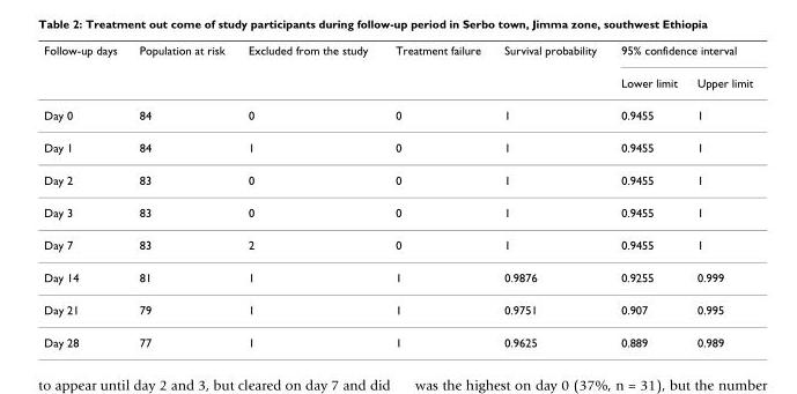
<table><thead><tr><td rowspan="2">Follow-up days</td><td rowspan="2">Population at risk</td><td rowspan="2">Excluded from the study</td><td rowspan="2">Treatment failure</td><td rowspan="2">Survival probability</td><td colspan="2">95% confidence interval</td></tr><tr><td>Lower limit</td><td>Upper limit</td></tr></thead><tbody><tr><td>Day 0</td><td>84</td><td>0</td><td>0</td><td>1</td><td>0.9455</td><td>1</td></tr><tr><td>Day 1</td><td>84</td><td>1</td><td>0</td><td>1</td><td>0.9455</td><td>1</td></tr><tr><td>Day 2</td><td>83</td><td>0</td><td>0</td><td>1</td><td>0.9455</td><td>1</td></tr><tr><td>Day 3</td><td>83</td><td>0</td><td>0</td><td>1</td><td>0.9455</td><td>1</td></tr><tr><td>Day 7</td><td>83</td><td>2</td><td>0</td><td>1</td><td>0.9455</td><td>1</td></tr><tr><td>Day 14</td><td>81</td><td>1</td><td>1</td><td>0.9876</td><td>0.9255</td><td>0.999</td></tr><tr><td>Day 21</td><td>79</td><td>1</td><td>1</td><td>0.9751</td><td>0.907</td><td>0.995</td></tr><tr><td>Day 28</td><td>77</td><td>1</td><td>1</td><td>0.9625</td><td>0.889</td><td>0.989</td></tr></tbody></table>